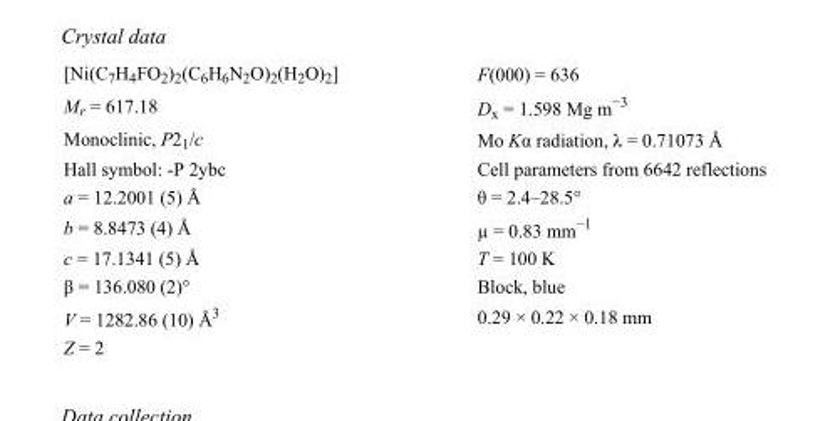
<table><tbody><tr><td>[Ni(C<sub>7</sub>H<sub>4</sub>FO<sub>2</sub>)<sub>2</sub>(C<sub>6</sub>H<sub>6</sub>N<sub>2</sub>O)<sub>2</sub>(H<sub>2</sub>O)<sub>2</sub>]</td><td>F(000) = 636</td></tr><tr><td>M<sub>r</sub> = 617.18</td><td>D<sub>x</sub> = 1.598 Mg m<sup>−3</sup></td></tr><tr><td>Monoclinic, P2<sub>1</sub>/c</td><td>Mo Kα radiation, λ = 0.71073 Å</td></tr><tr><td>Hall symbol: -P 2ybc</td><td>Cell parameters from 6642 reflections</td></tr><tr><td>a = 12.2001 (5) Å</td><td>θ = 2.4–28.5°</td></tr><tr><td>b = 8.8473 (4) Å</td><td>µ = 0.83 mm<sup>−1</sup></td></tr><tr><td>c = 17.1341 (5) Å</td><td>T = 100 K</td></tr><tr><td>β = 136.080 (2)°</td><td>Block, blue</td></tr><tr><td>V = 1282.86 (10) Å<sup>3</sup></td><td>0.29 × 0.22 × 0.18 mm</td></tr><tr><td>Z = 2</td><td></td></tr></tbody></table>